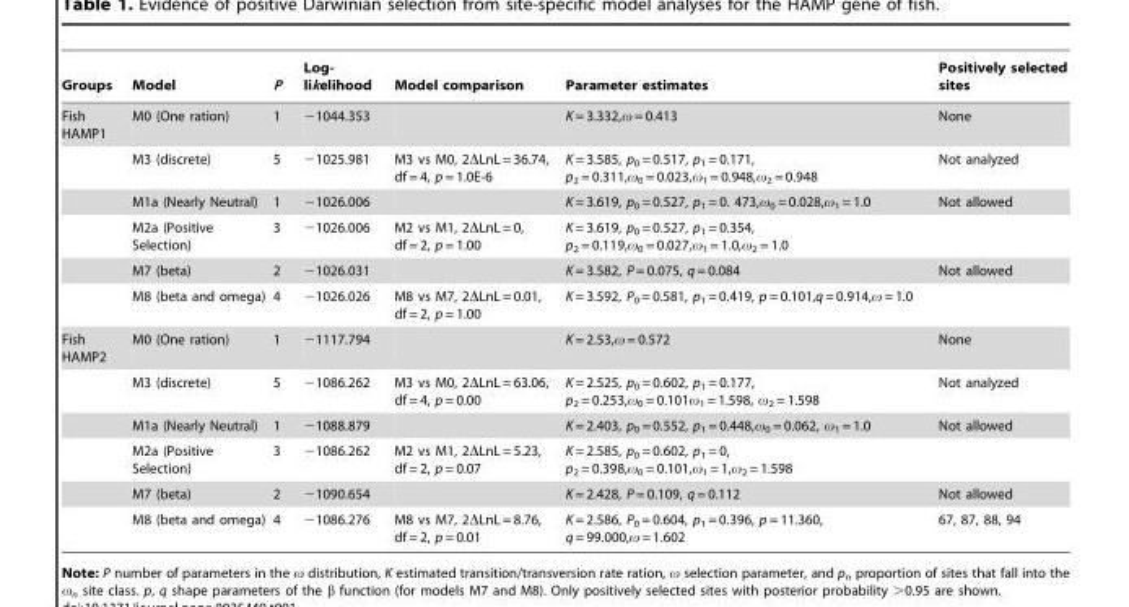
<table><thead><tr><td>Groups</td><td>Model</td><td>P</td><td>Log- likelihood</td><td>Model comparison</td><td>Parameter estimates</td><td>Positively selected sites</td></tr></thead><tbody><tr><td rowspan="6">Fish HAMP1</td><td>M0 (One ration)</td><td>1</td><td>−1044.353</td><td></td><td>K = 3.332,ω = 0.413</td><td>None</td></tr><tr><td>M3 (discrete)</td><td>5</td><td>−1025.981</td><td>M3 vs M0, 2ΔLnL = 36.74, df = 4, p = 1.0E-6</td><td>K = 3.585, p<sub>0</sub> = 0.517, p<sub>1</sub> = 0.171, p<sub>2</sub> = 0.311,ω<sub>0</sub> = 0.023,ω<sub>1</sub> = 0.948,ω<sub>2</sub> = 0.948</td><td>Not analyzed</td></tr><tr><td>M1a (Nearly Neutral)</td><td>1</td><td>−1026.006</td><td></td><td>K = 3.619, p<sub>0</sub> = 0.527, p<sub>1</sub> = 0. 473,ω<sub>0</sub> = 0.028,ω<sub>1</sub> = 1.0</td><td>Not allowed</td></tr><tr><td>M2a (Positive Selection)</td><td>3</td><td>−1026.006</td><td>M2 vs M1, 2ΔLnL = 0, df = 2, p = 1.00</td><td>K = 3.619, p<sub>0</sub> = 0.527, p<sub>1</sub> = 0.354, p<sub>2</sub> = 0.119,ω<sub>0</sub> = 0.027,ω<sub>1</sub> = 1.0,ω<sub>2</sub> = 1.0</td><td></td></tr><tr><td>M7 (beta)</td><td>2</td><td>−1026.031</td><td></td><td>K = 3.582, P = 0.075, q = 0.084</td><td>Not allowed</td></tr><tr><td>M8 (beta and omega)</td><td>4</td><td>−1026.026</td><td>M8 vs M7, 2ΔLnL = 0.01, df = 2, p = 1.00</td><td>K = 3.592, P<sub>0</sub> = 0.581, p<sub>1</sub> = 0.419, p = 0.101,q = 0.914,ω = 1.0</td><td></td></tr><tr><td rowspan="6">Fish HAMP2</td><td>M0 (One ration)</td><td>1</td><td>−1117.794</td><td></td><td>K = 2.53,ω = 0.572</td><td>None</td></tr><tr><td>M3 (discrete)</td><td>5</td><td>−1086.262</td><td>M3 vs M0, 2ΔLnL = 63.06, df = 4, p = 0.00</td><td>K = 2.525, p<sub>0</sub> = 0.602, p<sub>1</sub> = 0.177, p<sub>2</sub> = 0.253,ω<sub>0</sub> = 0.101ω<sub>1</sub> = 1.598, ω<sub>2</sub> = 1.598</td><td>Not analyzed</td></tr><tr><td>M1a (Nearly Neutral)</td><td>1</td><td>−1088.879</td><td></td><td>K = 2.403, p<sub>0</sub> = 0.552, p<sub>1</sub> = 0.448,ω<sub>0</sub> = 0.062, ω<sub>1</sub> = 1.0</td><td>Not allowed</td></tr><tr><td>M2a (Positive Selection)</td><td>3</td><td>−1086.262</td><td>M2 vs M1, 2ΔLnL = 5.23, df = 2, p = 0.07</td><td>K = 2.585, p<sub>0</sub> = 0.602, p<sub>1</sub> = 0, p<sub>2</sub> = 0.398,ω<sub>0</sub> = 0.101,ω<sub>1</sub> = 1,ω<sub>2</sub> = 1.598</td><td></td></tr><tr><td>M7 (beta)</td><td>2</td><td>−1090.654</td><td></td><td>K = 2.428, P = 0.109, q = 0.112</td><td>Not allowed</td></tr><tr><td>M8 (beta and omega)</td><td>4</td><td>−1086.276</td><td>M8 vs M7, 2ΔLnL = 8.76, df = 2, p = 0.01</td><td>K = 2.586, P<sub>0</sub> = 0.604, p<sub>1</sub> = 0.396, p = 11.360, q = 99.000,ω = 1.602</td><td>67, 87, 88, 94</td></tr></tbody></table>